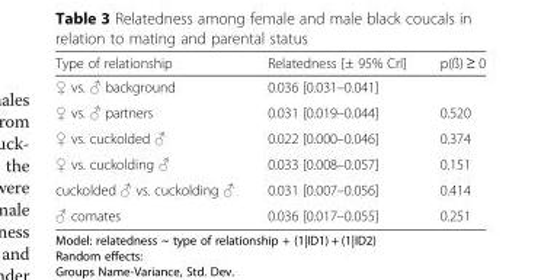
<table><thead><tr><td>Type of relationship</td><td>Relatedness [± 95% CrI]</td><td>p(ß) ≥ 0</td></tr></thead><tbody><tr><td>♀ vs. ♂ background</td><td>0.036 [0.031–0.041]</td><td></td></tr><tr><td>♀ vs. ♂ partners</td><td>0.031 [0.019–0.044]</td><td>0.520</td></tr><tr><td>♀ vs. cuckolded ♂</td><td>0.022 [0.000–0.046]</td><td>0.374</td></tr><tr><td>♀ vs. cuckolding ♂</td><td>0.033 [0.008–0.057]</td><td>0.151</td></tr><tr><td>cuckolded ♂ vs. cuckolding ♂</td><td>0.031 [0.007–0.056]</td><td>0.414</td></tr><tr><td>♂ comates</td><td>0.036 [0.017–0.055]</td><td>0.251</td></tr></tbody></table>